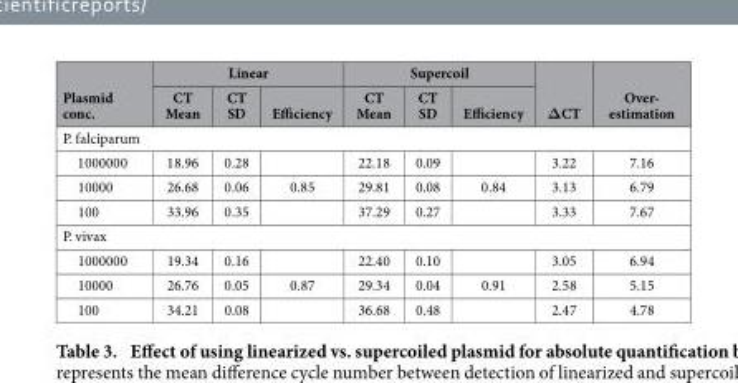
<table><thead><tr><td rowspan="2">Plasmid conc.</td><td colspan="3">Linear</td><td colspan="3">Supercoil</td><td rowspan="2">ΔCT</td><td rowspan="2">Over- estimation</td></tr><tr><td>CT Mean</td><td>CT SD</td><td>Efficiency</td><td>CT Mean</td><td>CT SD</td><td>Efficiency</td></tr></thead><tbody><tr><td colspan="9">P. falciparum</td></tr><tr><td>1000000</td><td>18.96</td><td>0.28</td><td></td><td>22.18</td><td>0.09</td><td></td><td>3.22</td><td>7.16</td></tr><tr><td>10000</td><td>26.68</td><td>0.06</td><td>0.85</td><td>29.81</td><td>0.08</td><td>0.84</td><td>3.13</td><td>6.79</td></tr><tr><td>100</td><td>33.96</td><td>0.35</td><td></td><td>37.29</td><td>0.27</td><td></td><td>3.33</td><td>7.67</td></tr><tr><td colspan="9">P. vivax</td></tr><tr><td>1000000</td><td>19.34</td><td>0.16</td><td></td><td>22.40</td><td>0.10</td><td></td><td>3.05</td><td>6.94</td></tr><tr><td>10000</td><td>26.76</td><td>0.05</td><td>0.87</td><td>29.34</td><td>0.04</td><td>0.91</td><td>2.58</td><td>5.15</td></tr><tr><td>100</td><td>34.21</td><td>0.08</td><td></td><td>36.68</td><td>0.48</td><td></td><td>2.47</td><td>4.78</td></tr></tbody></table>